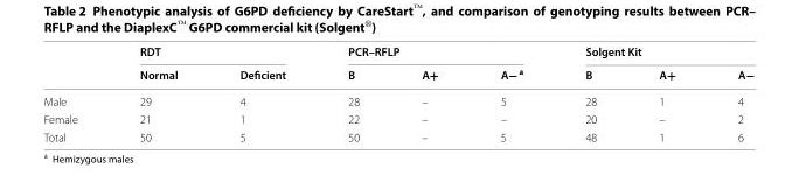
<table><thead><tr><td rowspan="2"></td><td colspan="2">RDT</td><td colspan="3">PCR–RFLP</td><td colspan="3">Solgent Kit</td></tr><tr><td>Normal</td><td>Deficient</td><td>B</td><td>A+</td><td>A− <sup>a</sup></td><td>B</td><td>A+</td><td>A−</td></tr></thead><tbody><tr><td>Male</td><td>29</td><td>4</td><td>28</td><td>–</td><td>5</td><td>28</td><td>1</td><td>4</td></tr><tr><td>Female</td><td>21</td><td>1</td><td>22</td><td>–</td><td>–</td><td>20</td><td>–</td><td>2</td></tr><tr><td>Total</td><td>50</td><td>5</td><td>50</td><td>–</td><td>5</td><td>48</td><td>1</td><td>6</td></tr></tbody></table>